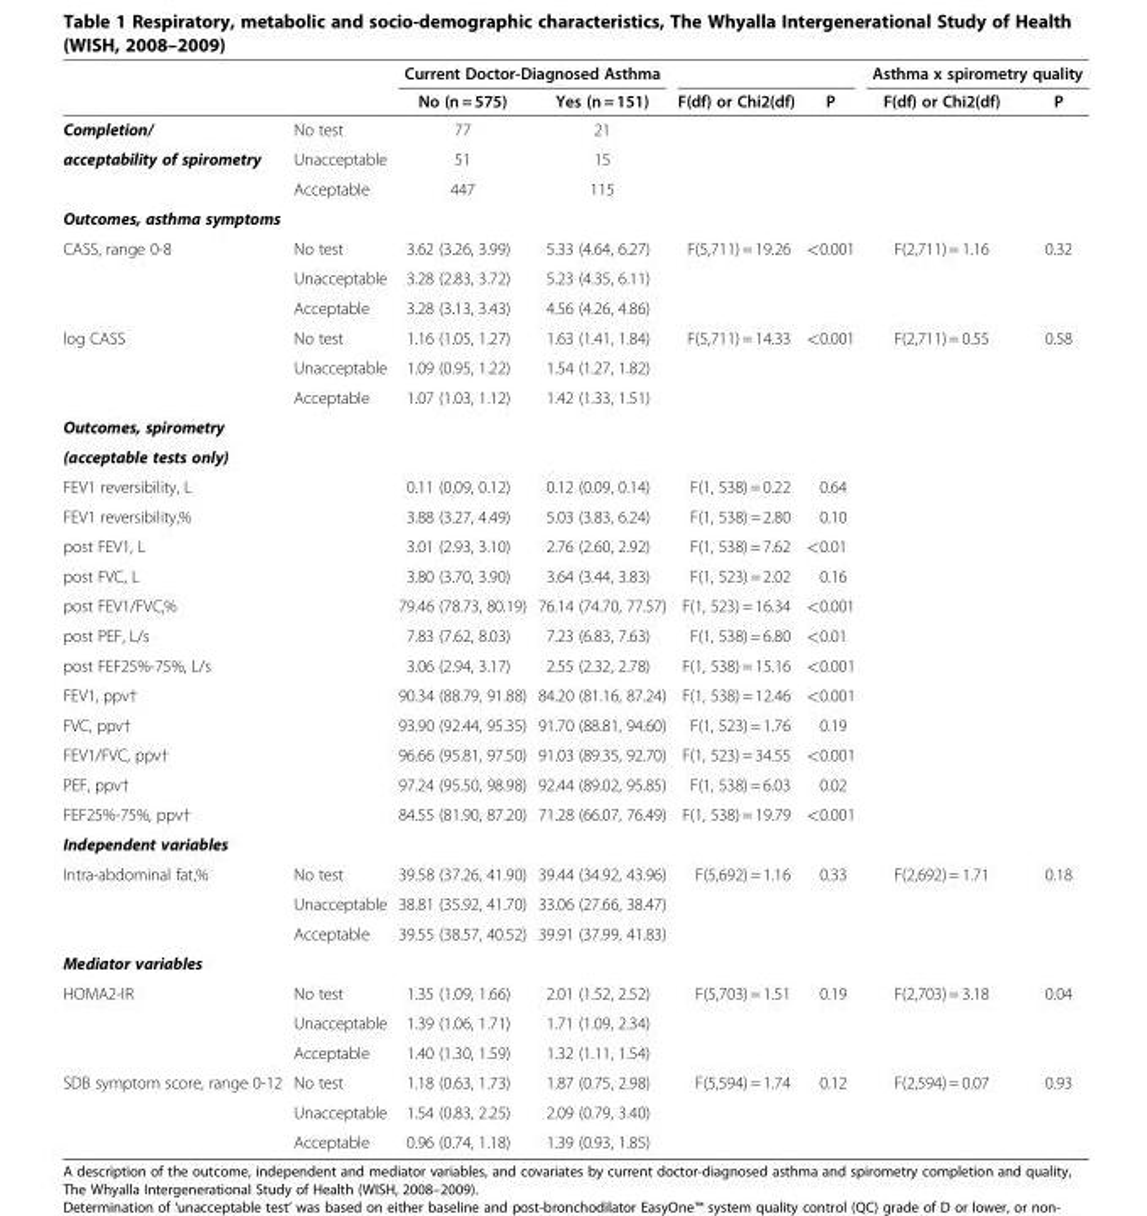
<table><thead><tr><td rowspan="2"></td><td rowspan="2"></td><td colspan="2">Current Doctor-Diagnosed Asthma</td><td rowspan="2">F(df) or Chi2(df)</td><td rowspan="2">P</td><td colspan="2">Asthma x spirometry quality</td></tr><tr><td>No (n = 575)</td><td>Yes (n = 151)</td><td>F(df) or Chi2(df)</td><td>P</td></tr></thead><tbody><tr><td>Completion/</td><td>No test</td><td>77</td><td>21</td><td></td><td></td><td></td><td></td></tr><tr><td rowspan="2">acceptability of spirometry</td><td>Unacceptable</td><td>51</td><td>15</td><td></td><td></td><td></td><td></td></tr><tr><td>Acceptable</td><td>447</td><td>115</td><td></td><td></td><td></td><td></td></tr><tr><td colspan="8">Outcomes, asthma symptoms</td></tr><tr><td rowspan="3">CASS, range 0-8</td><td>No test</td><td>3.62 (3.26, 3.99)</td><td>5.33 (4.64, 6.27)</td><td>F(5,711) = 19.26</td><td>&lt;0.001</td><td>F(2,711) = 1.16</td><td>0.32</td></tr><tr><td>Unacceptable</td><td>3.28 (2.83, 3.72)</td><td>5.23 (4.35, 6.11)</td><td></td><td></td><td></td><td></td></tr><tr><td>Acceptable</td><td>3.28 (3.13, 3.43)</td><td>4.56 (4.26, 4.86)</td><td></td><td></td><td></td><td></td></tr><tr><td rowspan="3">log CASS</td><td>No test</td><td>1.16 (1.05, 1.27)</td><td>1.63 (1.41, 1.84)</td><td>F(5,711) = 14.33</td><td>&lt;0.001</td><td>F(2,711) = 0.55</td><td>0.58</td></tr><tr><td>Unacceptable</td><td>1.09 (0.95, 1.22)</td><td>1.54 (1.27, 1.82)</td><td></td><td></td><td></td><td></td></tr><tr><td>Acceptable</td><td>1.07 (1.03, 1.12)</td><td>1.42 (1.33, 1.51)</td><td></td><td></td><td></td><td></td></tr><tr><td colspan="8">Outcomes, spirometry</td></tr><tr><td colspan="8">(acceptable tests only)</td></tr><tr><td>FEV1 reversibility, L</td><td></td><td>0.11 (0.09, 0.12)</td><td>0.12 (0.09, 0.14)</td><td>F(1, 538) = 0.22</td><td>0.64</td><td></td><td></td></tr><tr><td>FEV1 reversibility,%</td><td></td><td>3.88 (3.27, 4.49)</td><td>5.03 (3.83, 6.24)</td><td>F(1, 538) = 2.80</td><td>0.10</td><td></td><td></td></tr><tr><td>post FEV1, L</td><td></td><td>3.01 (2.93, 3.10)</td><td>2.76 (2.60, 2.92)</td><td>F(1, 538) = 7.62</td><td>&lt;0.01</td><td></td><td></td></tr><tr><td>post FVC, L</td><td></td><td>3.80 (3.70, 3.90)</td><td>3.64 (3.44, 3.83)</td><td>F(1, 523) = 2.02</td><td>0.16</td><td></td><td></td></tr><tr><td>post FEV1/FVC,%</td><td></td><td>79.46 (78.73, 80.19)</td><td>76.14 (74.70, 77.57)</td><td>F(1, 523) = 16.34</td><td>&lt;0.001</td><td></td><td></td></tr><tr><td>post PEF, L/s</td><td></td><td>7.83 (7.62, 8.03)</td><td>7.23 (6.83, 7.63)</td><td>F(1, 538) = 6.80</td><td>&lt;0.01</td><td></td><td></td></tr><tr><td>post FEF25%-75%, L/s</td><td></td><td>3.06 (2.94, 3.17)</td><td>2.55 (2.32, 2.78)</td><td>F(1, 538) = 15.16</td><td>&lt;0.001</td><td></td><td></td></tr><tr><td>FEV1, ppv†</td><td></td><td>90.34 (88.79, 91.88)</td><td>84.20 (81.16, 87.24)</td><td>F(1, 538) = 12.46</td><td>&lt;0.001</td><td></td><td></td></tr><tr><td>FVC, ppv†</td><td></td><td>93.90 (92.44, 95.35)</td><td>91.70 (88.81, 94.60)</td><td>F(1, 523) = 1.76</td><td>0.19</td><td></td><td></td></tr><tr><td>FEV1/FVC, ppv†</td><td></td><td>96.66 (95.81, 97.50)</td><td>91.03 (89.35, 92.70)</td><td>F(1, 523) = 34.55</td><td>&lt;0.001</td><td></td><td></td></tr><tr><td>PEF, ppv†</td><td></td><td>97.24 (95.50, 98.98)</td><td>92.44 (89.02, 95.85)</td><td>F(1, 538) = 6.03</td><td>0.02</td><td></td><td></td></tr><tr><td>FEF25%-75%, ppv†</td><td></td><td>84.55 (81.90, 87.20)</td><td>71.28 (66.07, 76.49)</td><td>F(1, 538) = 19.79</td><td>&lt;0.001</td><td></td><td></td></tr><tr><td colspan="8">Independent variables</td></tr><tr><td rowspan="3">Intra-abdominal fat,%</td><td>No test</td><td>39.58 (37.26, 41.90)</td><td>39.44 (34.92, 43.96)</td><td>F(5,692) = 1.16</td><td>0.33</td><td>F(2,692) = 1.71</td><td>0.18</td></tr><tr><td>Unacceptable</td><td>38.81 (35.92, 41.70)</td><td>33.06 (27.66, 38.47)</td><td></td><td></td><td></td><td></td></tr><tr><td>Acceptable</td><td>39.55 (38.57, 40.52)</td><td>39.91 (37.99, 41.83)</td><td></td><td></td><td></td><td></td></tr><tr><td colspan="8">Mediator variables</td></tr><tr><td rowspan="3">HOMA2-IR</td><td>No test</td><td>1.35 (1.09, 1.66)</td><td>2.01 (1.52, 2.52)</td><td>F(5,703) = 1.51</td><td>0.19</td><td>F(2,703) = 3.18</td><td>0.04</td></tr><tr><td>Unacceptable</td><td>1.39 (1.06, 1.71)</td><td>1.71 (1.09, 2.34)</td><td></td><td></td><td></td><td></td></tr><tr><td>Acceptable</td><td>1.40 (1.30, 1.59)</td><td>1.32 (1.11, 1.54)</td><td></td><td></td><td></td><td></td></tr><tr><td rowspan="3">SDB symptom score, range 0-12</td><td>No test</td><td>1.18 (0.63, 1.73)</td><td>1.87 (0.75, 2.98)</td><td>F(5,594) = 1.74</td><td>0.12</td><td>F(2,594) = 0.07</td><td>0.93</td></tr><tr><td>Unacceptable</td><td>1.54 (0.83, 2.25)</td><td>2.09 (0.79, 3.40)</td><td></td><td></td><td></td><td></td></tr><tr><td>Acceptable</td><td>0.96 (0.74, 1.18)</td><td>1.39 (0.93, 1.85)</td><td></td><td></td><td></td><td></td></tr></tbody></table>